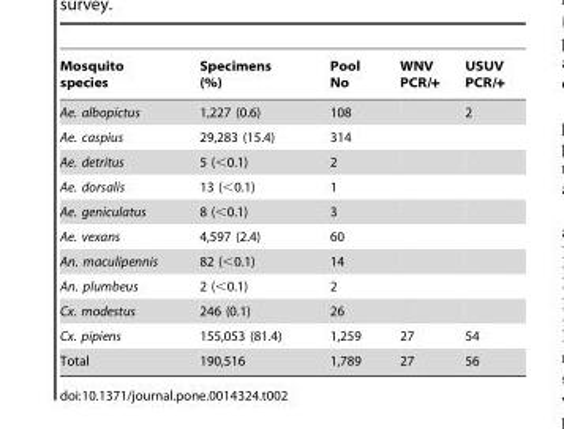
<table><thead><tr><td>Mosquito species</td><td>Specimens (%)</td><td>Pool No</td><td>WNV PCR/+</td><td>USUV PCR/+</td></tr></thead><tbody><tr><td>Ae. albopictus</td><td>1,227 (0.6)</td><td>108</td><td></td><td>2</td></tr><tr><td>Ae. caspius</td><td>29,283 (15.4)</td><td>314</td><td></td><td></td></tr><tr><td>Ae. detritus</td><td>5 (&lt;0.1)</td><td>2</td><td></td><td></td></tr><tr><td>Ae. dorsalis</td><td>13 (&lt;0.1)</td><td>1</td><td></td><td></td></tr><tr><td>Ae. geniculatus</td><td>8 (&lt;0.1)</td><td>3</td><td></td><td></td></tr><tr><td>Ae. vexans</td><td>4,597 (2.4)</td><td>60</td><td></td><td></td></tr><tr><td>An. maculipennis</td><td>82 (&lt;0.1)</td><td>14</td><td></td><td></td></tr><tr><td>An. plumbeus</td><td>2 (&lt;0.1)</td><td>2</td><td></td><td></td></tr><tr><td>Cx. modestus</td><td>246 (0.1)</td><td>26</td><td></td><td></td></tr><tr><td>Cx. pipiens</td><td>155,053 (81.4)</td><td>1,259</td><td>27</td><td>54</td></tr><tr><td>Total</td><td>190,516</td><td>1,789</td><td>27</td><td>56</td></tr></tbody></table>